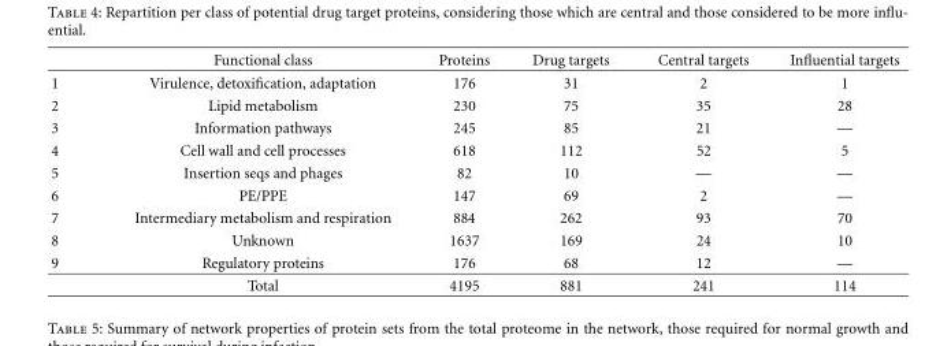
<table><thead><tr><td></td><td>Functional class</td><td>Proteins</td><td>Drug targets</td><td>Central targets</td><td>Influential targets</td></tr></thead><tbody><tr><td>1</td><td>Virulence, detoxification, adaptation</td><td>176</td><td>31</td><td>2</td><td>1</td></tr><tr><td>2</td><td>Lipid metabolism</td><td>230</td><td>75</td><td>35</td><td>28</td></tr><tr><td>3</td><td>Information pathways</td><td>245</td><td>85</td><td>21</td><td>—</td></tr><tr><td>4</td><td>Cell wall and cell processes</td><td>618</td><td>112</td><td>52</td><td>5</td></tr><tr><td>5</td><td>Insertion seqs and phages</td><td>82</td><td>10</td><td>—</td><td>—</td></tr><tr><td>6</td><td>PE/PPE</td><td>147</td><td>69</td><td>2</td><td>—</td></tr><tr><td>7</td><td>Intermediary metabolism and respiration</td><td>884</td><td>262</td><td>93</td><td>70</td></tr><tr><td>8</td><td>Unknown</td><td>1637</td><td>169</td><td>24</td><td>10</td></tr><tr><td rowspan="2">9</td><td>Regulatory proteins</td><td>176</td><td>68</td><td>12</td><td>—</td></tr><tr><td>Total</td><td>4195</td><td>881</td><td>241</td><td>114</td></tr></tbody></table>